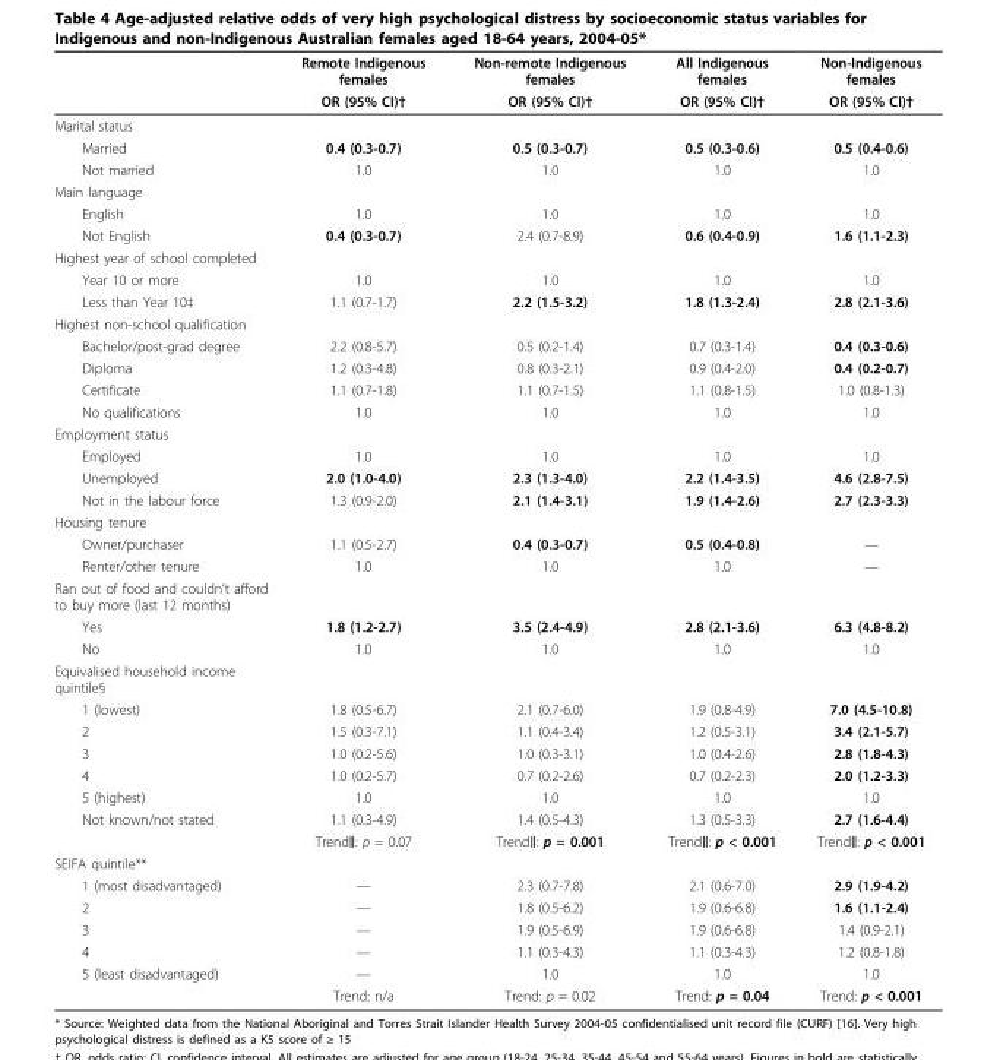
<table><thead><tr><td rowspan="2"></td><td rowspan="2">Remote Indigenous females OR (95% CI)†</td><td rowspan="2">Non-remote Indigenous females OR (95% CI)†</td><td rowspan="2">All Indigenous females OR (95% CI)†</td><td rowspan="2">Non-Indigenous females OR (95% CI)†</td></tr><tr></tr></thead><tbody><tr><td colspan="5">Marital status</td></tr><tr><td>Married</td><td>0.4 (0.3-0.7)</td><td>0.5 (0.3-0.7)</td><td>0.5 (0.3-0.6)</td><td>0.5 (0.4-0.6)</td></tr><tr><td>Not married</td><td>1.0</td><td>1.0</td><td>1.0</td><td>1.0</td></tr><tr><td colspan="5">Main language</td></tr><tr><td>English</td><td>1.0</td><td>1.0</td><td>1.0</td><td>1.0</td></tr><tr><td>Not English</td><td>0.4 (0.3-0.7)</td><td>2.4 (0.7-8.9)</td><td>0.6 (0.4-0.9)</td><td>1.6 (1.1-2.3)</td></tr><tr><td colspan="5">Highest year of school completed</td></tr><tr><td>Year 10 or more</td><td>1.0</td><td>1.0</td><td>1.0</td><td>1.0</td></tr><tr><td>Less than Year 10‡</td><td>1.1 (0.7-1.7)</td><td>2.2 (1.5-3.2)</td><td>1.8 (1.3-2.4)</td><td>2.8 (2.1-3.6)</td></tr><tr><td colspan="5">Highest non-school qualification</td></tr><tr><td>Bachelor/post-grad degree</td><td>2.2 (0.8-5.7)</td><td>0.5 (0.2-1.4)</td><td>0.7 (0.3-1.4)</td><td>0.4 (0.3-0.6)</td></tr><tr><td>Diploma</td><td>1.2 (0.3-4.8)</td><td>0.8 (0.3-2.1)</td><td>0.9 (0.4-2.0)</td><td>0.4 (0.2-0.7)</td></tr><tr><td>Certificate</td><td>1.1 (0.7-1.8)</td><td>1.1 (0.7-1.5)</td><td>1.1 (0.8-1.5)</td><td>1.0 (0.8-1.3)</td></tr><tr><td>No qualifications</td><td>1.0</td><td>1.0</td><td>1.0</td><td>1.0</td></tr><tr><td colspan="5">Employment status</td></tr><tr><td>Employed</td><td>1.0</td><td>1.0</td><td>1.0</td><td>1.0</td></tr><tr><td>Unemployed</td><td>2.0 (1.0-4.0)</td><td>2.3 (1.3-4.0)</td><td>2.2 (1.4-3.5)</td><td>4.6 (2.8-7.5)</td></tr><tr><td>Not in the labour force</td><td>1.3 (0.9-2.0)</td><td>2.1 (1.4-3.1)</td><td>1.9 (1.4-2.6)</td><td>2.7 (2.3-3.3)</td></tr><tr><td colspan="5">Housing tenure</td></tr><tr><td>Owner/purchaser</td><td>1.1 (0.5-2.7)</td><td>0.4 (0.3-0.7)</td><td>0.5 (0.4-0.8)</td><td>—</td></tr><tr><td>Renter/other tenure</td><td>1.0</td><td>1.0</td><td>1.0</td><td>—</td></tr><tr><td colspan="5">Ran out of food and couldn’t afford to buy more (last 12 months)</td></tr><tr><td>Yes</td><td>1.8 (1.2-2.7)</td><td>3.5 (2.4-4.9)</td><td>2.8 (2.1-3.6)</td><td>6.3 (4.8-8.2)</td></tr><tr><td>No</td><td>1.0</td><td>1.0</td><td>1.0</td><td>1.0</td></tr><tr><td colspan="5">Equivalised household income quintile§</td></tr><tr><td>1 (lowest)</td><td>1.8 (0.5-6.7)</td><td>2.1 (0.7-6.0)</td><td>1.9 (0.8-4.9)</td><td>7.0 (4.5-10.8)</td></tr><tr><td>2</td><td>1.5 (0.3-7.1)</td><td>1.1 (0.4-3.4)</td><td>1.2 (0.5-3.1)</td><td>3.4 (2.1-5.7)</td></tr><tr><td>3</td><td>1.0 (0.2-5.6)</td><td>1.0 (0.3-3.1)</td><td>1.0 (0.4-2.6)</td><td>2.8 (1.8-4.3)</td></tr><tr><td>4</td><td>1.0 (0.2-5.7)</td><td>0.7 (0.2-2.6)</td><td>0.7 (0.2-2.3)</td><td>2.0 (1.2-3.3)</td></tr><tr><td>5 (highest)</td><td>1.0</td><td>1.0</td><td>1.0</td><td>1.0</td></tr><tr><td rowspan="2">Not known/not stated</td><td>1.1 (0.3-4.9)</td><td>1.4 (0.5-4.3)</td><td>1.3 (0.5-3.3)</td><td>2.7 (1.6-4.4)</td></tr><tr><td>Trend‖: p = 0.07</td><td>Trend‖: p = 0.001</td><td>Trend‖: p &lt; 0.001</td><td>Trend‖: p &lt; 0.001</td></tr><tr><td colspan="5">SEIFA quintile**</td></tr><tr><td>1 (most disadvantaged)</td><td>—</td><td>2.3 (0.7-7.8)</td><td>2.1 (0.6-7.0)</td><td>2.9 (1.9-4.2)</td></tr><tr><td>2</td><td>—</td><td>1.8 (0.5-6.2)</td><td>1.9 (0.6-6.8)</td><td>1.6 (1.1-2.4)</td></tr><tr><td>3</td><td>—</td><td>1.9 (0.5-6.9)</td><td>1.9 (0.6-6.8)</td><td>1.4 (0.9-2.1)</td></tr><tr><td>4</td><td>—</td><td>1.1 (0.3-4.3)</td><td>1.1 (0.3-4.3)</td><td>1.2 (0.8-1.8)</td></tr><tr><td rowspan="2">5 (least disadvantaged)</td><td>—</td><td>1.0</td><td>1.0</td><td>1.0</td></tr><tr><td>Trend: n/a</td><td>Trend: p = 0.02</td><td>Trend: p = 0.04</td><td>Trend: p &lt; 0.001</td></tr></tbody></table>